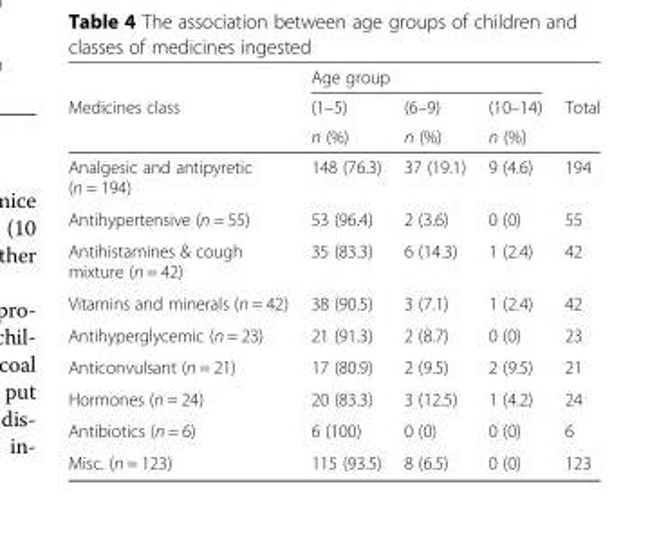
<table><thead><tr><td rowspan="3">Medicines class</td><td colspan="3">Age group</td><td rowspan="3">Total</td></tr><tr><td rowspan="2">(1–5) n (%)</td><td rowspan="2">(6–9) n (%)</td><td rowspan="2">(10–14) n (%)</td></tr><tr></tr></thead><tbody><tr><td>Analgesic and antipyretic (n = 194)</td><td>148 (76.3)</td><td>37 (19.1)</td><td>9 (4.6)</td><td>194</td></tr><tr><td>Antihypertensive (n = 55)</td><td>53 (96.4)</td><td>2 (3.6)</td><td>0 (0)</td><td>55</td></tr><tr><td>Antihistamines &amp; cough mixture (n = 42)</td><td>35 (83.3)</td><td>6 (14.3)</td><td>1 (2.4)</td><td>42</td></tr><tr><td>Vitamins and minerals (n = 42)</td><td>38 (90.5)</td><td>3 (7.1)</td><td>1 (2.4)</td><td>42</td></tr><tr><td>Antihyperglycemic (n = 23)</td><td>21 (91.3)</td><td>2 (8.7)</td><td>0 (0)</td><td>23</td></tr><tr><td>Anticonvulsant (n = 21)</td><td>17 (80.9)</td><td>2 (9.5)</td><td>2 (9.5)</td><td>21</td></tr><tr><td>Hormones (n = 24)</td><td>20 (83.3)</td><td>3 (12.5)</td><td>1 (4.2)</td><td>24</td></tr><tr><td>Antibiotics (n = 6)</td><td>6 (100)</td><td>0 (0)</td><td>0 (0)</td><td>6</td></tr><tr><td>Misc. (n = 123)</td><td>115 (93.5)</td><td>8 (6.5)</td><td>0 (0)</td><td>123</td></tr></tbody></table>